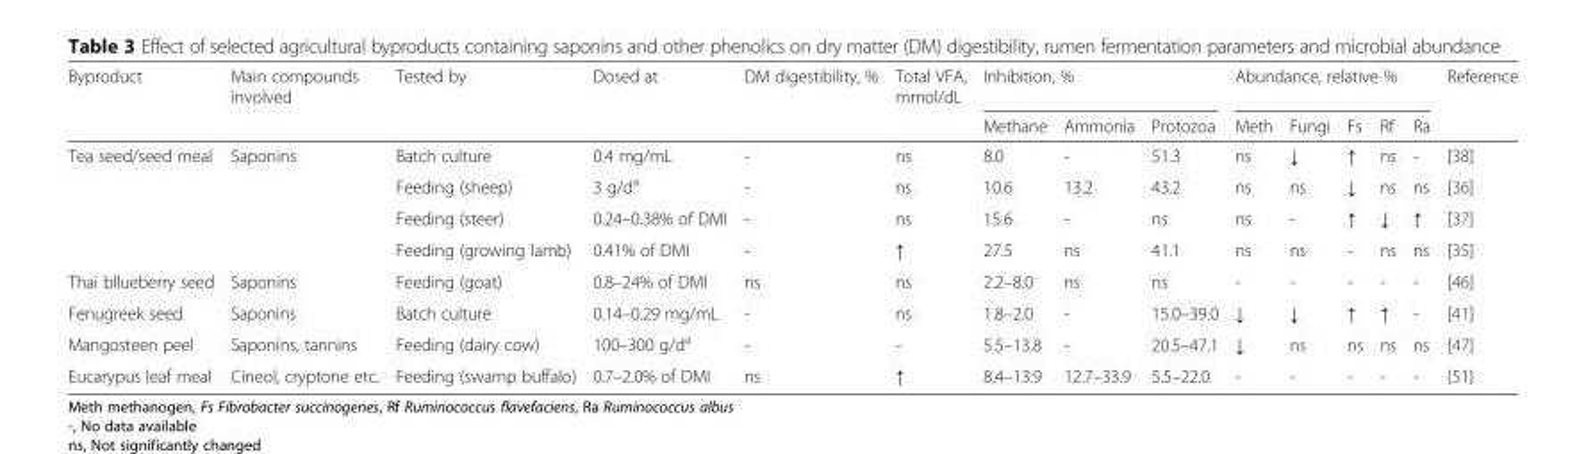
<table><thead><tr><td rowspan="2">Byproduct</td><td rowspan="2">Main compounds involved</td><td rowspan="2">Tested by</td><td rowspan="2">Dosed at</td><td rowspan="2">DM digestibility, %</td><td rowspan="2">Total VFA, mmol/dL</td><td colspan="3">Inhibition, %</td><td colspan="5">Abundance, relative %</td><td rowspan="2">Reference</td></tr><tr><td>Methane</td><td>Ammonia</td><td>Protozoa</td><td>Meth</td><td>Fungi</td><td>Fs</td><td>Rf</td><td>Ra</td></tr></thead><tbody><tr><td rowspan="4">Tea seed/seed meal</td><td rowspan="4">Saponins</td><td>Batch culture</td><td>0.4 mg/mL</td><td>-</td><td>ns</td><td>8.0</td><td>-</td><td>51.3</td><td>ns</td><td>↓</td><td>↑</td><td>ns</td><td>-</td><td>[38]</td></tr><tr><td>Feeding (sheep)</td><td>3 g/d<sup>a</sup></td><td>-</td><td>ns</td><td>10.6</td><td>13.2</td><td>43.2</td><td>ns</td><td>ns</td><td>↓</td><td>ns</td><td>ns</td><td>[36]</td></tr><tr><td>Feeding (steer)</td><td>0.24–0.38% of DMI</td><td>-</td><td>ns</td><td>15.6</td><td>-</td><td>ns</td><td>ns</td><td>-</td><td>↑</td><td>↓</td><td>↑</td><td>[37]</td></tr><tr><td>Feeding (growing lamb)</td><td>0.41% of DMI</td><td>-</td><td>↑</td><td>27.5</td><td>ns</td><td>41.1</td><td>ns</td><td>ns</td><td>-</td><td>ns</td><td>ns</td><td>[35]</td></tr><tr><td>Thai bllueberry seed</td><td>Saponins</td><td>Feeding (goat)</td><td>0.8–24% of DMI</td><td>ns</td><td>ns</td><td>2.2–8.0</td><td>ns</td><td>ns</td><td>-</td><td>-</td><td>-</td><td>-</td><td>-</td><td>[46]</td></tr><tr><td>Fenugreek seed</td><td>Saponins</td><td>Batch culture</td><td>0.14–0.29 mg/mL</td><td>-</td><td>ns</td><td>1.8–2.0</td><td>-</td><td>15.0–39.0</td><td>↓</td><td>↓</td><td>↑</td><td>↑</td><td>-</td><td>[41]</td></tr><tr><td>Mangosteen peel</td><td>Saponins, tannins</td><td>Feeding (dairy cow)</td><td>100–300 g/d<sup>a</sup></td><td>-</td><td>-</td><td>5.5–13.8</td><td>-</td><td>20.5–47.1</td><td>↓</td><td>ns</td><td>ns</td><td>ns</td><td>ns</td><td>[47]</td></tr><tr><td>Eucarypus leaf meal</td><td>Cineol, cryptone etc.</td><td>Feeding (swamp buffalo)</td><td>0.7–2.0% of DMI</td><td>ns</td><td>↑</td><td>8.4–13.9</td><td>12.7–33.9</td><td>5.5–22.0</td><td>-</td><td>-</td><td>-</td><td>-</td><td>-</td><td>{51}</td></tr></tbody></table>